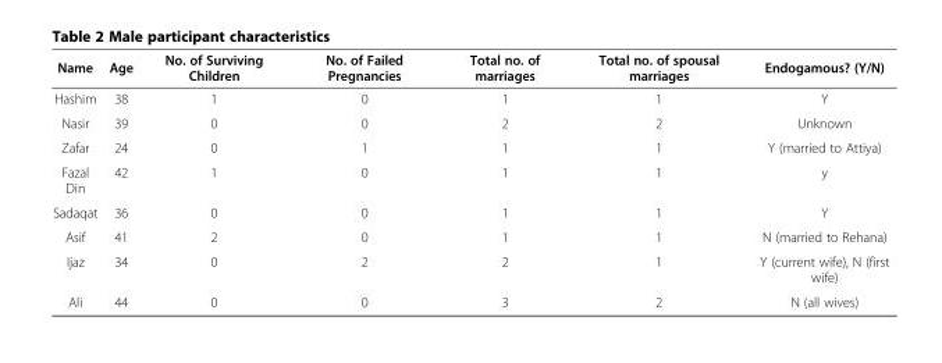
<table><thead><tr><td>Name</td><td>Age</td><td>No. of Surviving Children</td><td>No. of Failed Pregnancies</td><td>Total no. of marriages</td><td>Total no. of spousal marriages</td><td>Endogamous? (Y/N)</td></tr></thead><tbody><tr><td>Hashim</td><td>38</td><td>1</td><td>0</td><td>1</td><td>1</td><td>Y</td></tr><tr><td>Nasir</td><td>39</td><td>0</td><td>0</td><td>2</td><td>2</td><td>Unknown</td></tr><tr><td>Zafar</td><td>24</td><td>0</td><td>1</td><td>1</td><td>1</td><td>Y (married to Attiya)</td></tr><tr><td>Fazal Din</td><td>42</td><td>1</td><td>0</td><td>1</td><td>1</td><td>y</td></tr><tr><td>Sadaqat</td><td>36</td><td>0</td><td>0</td><td>1</td><td>1</td><td>Y</td></tr><tr><td>Asif</td><td>41</td><td>2</td><td>0</td><td>1</td><td>1</td><td>N (married to Rehana)</td></tr><tr><td>Ijaz</td><td>34</td><td>0</td><td>2</td><td>2</td><td>1</td><td>Y (current wife), N (first wife)</td></tr><tr><td>Ali</td><td>44</td><td>0</td><td>0</td><td>3</td><td>2</td><td>N (all wives)</td></tr></tbody></table>